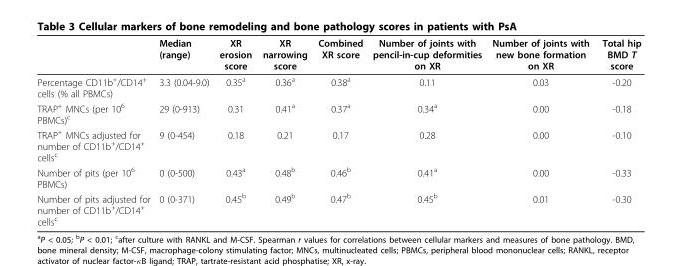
<table><thead><tr><td></td><td>Median (range)</td><td>XR erosion score</td><td>XR narrowing score</td><td>Combined XR score</td><td>Number of joints with pencil-in-cup deformities on XR</td><td>Number of joints with new bone formation on XR</td><td>Total hip BMD T score</td></tr></thead><tbody><tr><td>Percentage CD11b<sup>+</sup>/CD14<sup>+</sup> cells (% all PBMCs)</td><td>3.3 (0.04-9.0)</td><td>0.35<sup>a</sup></td><td>0.36<sup>a</sup></td><td>0.38<sup>a</sup></td><td>0.11</td><td>0.03</td><td>-0.20</td></tr><tr><td>TRAP<sup>+</sup> MNCs (per 10<sup>6</sup> PBMCs)<sup>c</sup></td><td>29 (0-913)</td><td>0.31</td><td>0.41<sup>a</sup></td><td>0.37<sup>a</sup></td><td>0.34<sup>a</sup></td><td>0.00</td><td>-0.18</td></tr><tr><td>TRAP<sup>+</sup> MNCs adjusted for number of CD11b<sup>+</sup>/CD14<sup>+</sup> cells<sup>c</sup></td><td>9 (0-454)</td><td>0.18</td><td>0.21</td><td>0.17</td><td>0.28</td><td>0.00</td><td>-0.10</td></tr><tr><td>Number of pits (per 10<sup>6</sup> PBMCs)</td><td>0 (0-500)</td><td>0.43<sup>a</sup></td><td>0.48<sup>b</sup></td><td>0.46<sup>b</sup></td><td>0.41<sup>a</sup></td><td>0.00</td><td>-0.33</td></tr><tr><td>Number of pits adjusted for number of CD11b<sup>+</sup>/CD14<sup>+</sup> cells<sup>c</sup></td><td>0 (0-371)</td><td>0.45<sup>b</sup></td><td>0.49<sup>b</sup></td><td>0.47<sup>b</sup></td><td>0.45<sup>b</sup></td><td>0.01</td><td>-0.30</td></tr></tbody></table>